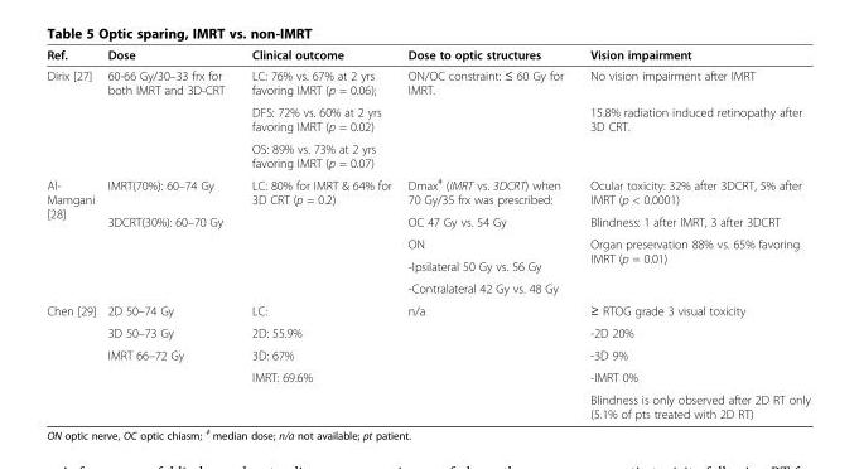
<table><thead><tr><td>Ref.</td><td>Dose</td><td>Clinical outcome</td><td>Dose to optic structures</td><td>Vision impairment</td></tr></thead><tbody><tr><td rowspan="3">Dirix [27]</td><td rowspan="3">60-66 Gy/30–33 frx for both IMRT and 3D-CRT</td><td>LC: 76% vs. 67% at 2 yrs favoring IMRT (p = 0.06);</td><td rowspan="3">ON/OC constraint: ≤ 60 Gy for IMRT.</td><td>No vision impairment after IMRT</td></tr><tr><td>DFS: 72% vs. 60% at 2 yrs favoring IMRT (p = 0.02)</td><td rowspan="2">15.8% radiation induced retinopathy after 3D CRT.</td></tr><tr><td>OS: 89% vs. 73% at 2 yrs favoring IMRT (p = 0.07)</td></tr><tr><td rowspan="5">Al- Mamgani [28]</td><td>IMRT(70%): 60–74 Gy</td><td rowspan="5">LC: 80% for IMRT &amp; 64% for 3D CRT (p = 0.2)</td><td>Dmax<sup>ǂ</sup> (IMRT vs. 3DCRT) when 70 Gy/35 frx was prescribed:</td><td>Ocular toxicity: 32% after 3DCRT, 5% after IMRT (p &lt; 0.0001)</td></tr><tr><td rowspan="4">3DCRT(30%): 60–70 Gy</td><td>OC 47 Gy vs. 54 Gy</td><td>Blindness: 1 after IMRT, 3 after 3DCRT</td></tr><tr><td>ON</td><td rowspan="3">Organ preservation 88% vs. 65% favoring IMRT (p = 0.01)</td></tr><tr><td>-Ipsilateral 50 Gy vs. 56 Gy</td></tr><tr><td>-Contralateral 42 Gy vs. 48 Gy</td></tr><tr><td rowspan="5">Chen [29]</td><td>2D 50–74 Gy</td><td>LC:</td><td rowspan="4">n/a</td><td>≥ RTOG grade 3 visual toxicity</td></tr><tr><td>3D 50–73 Gy</td><td>2D: 55.9%</td><td>-2D 20%</td></tr><tr><td rowspan="2">IMRT 66–72 Gy</td><td>3D: 67%</td><td>-3D 9%</td></tr><tr><td>IMRT: 69.6%</td><td>-IMRT 0%</td></tr><tr><td></td><td></td><td></td><td>Blindness is only observed after 2D RT only (5.1% of pts treated with 2D RT)</td></tr></tbody></table>